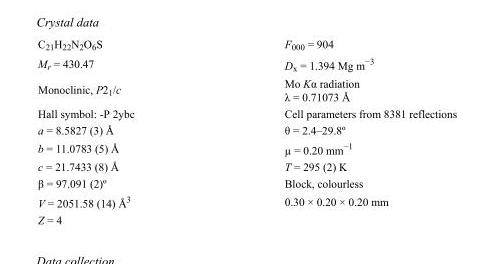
<table><tbody><tr><td>C<sub>21</sub>H<sub>22</sub>N<sub>2</sub>O<sub>6</sub>S</td><td>F<sub>000</sub> = 904</td></tr><tr><td>M<sub>r</sub> = 430.47</td><td>D<sub>x</sub> = 1.394 Mg m<sup>−3</sup></td></tr><tr><td>Monoclinic, P2<sub>1</sub>/c</td><td>Mo Kα radiation λ = 0.71073 Å</td></tr><tr><td>Hall symbol: -P 2ybc</td><td>Cell parameters from 8381 reflections</td></tr><tr><td>a = 8.5827 (3) Å</td><td>θ = 2.4–29.8º</td></tr><tr><td>b = 11.0783 (5) Å</td><td>µ = 0.20 mm<sup>−1</sup></td></tr><tr><td>c = 21.7433 (8) Å</td><td>T = 295 (2) K</td></tr><tr><td>β = 97.091 (2)º</td><td>Block, colourless</td></tr><tr><td>V = 2051.58 (14) Å<sup>3</sup></td><td>0.30 × 0.20 × 0.20 mm</td></tr><tr><td>Z = 4</td><td></td></tr></tbody></table>